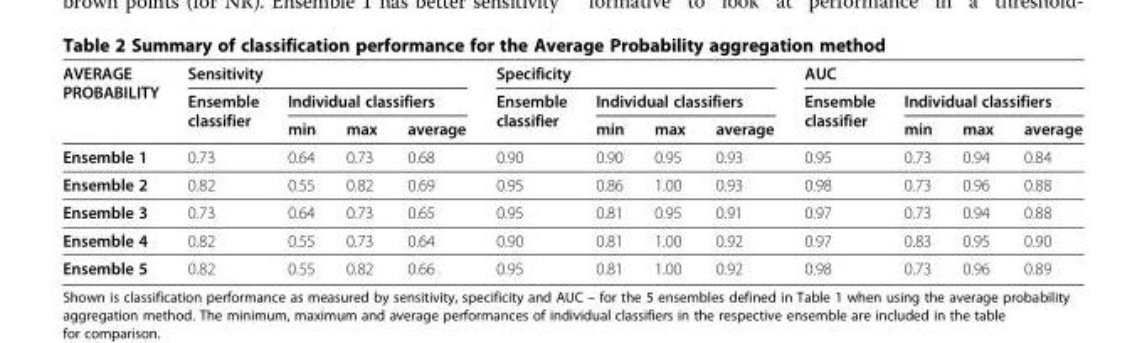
<table><thead><tr><td rowspan="3">AVERAGE PROBABILITY</td><td colspan="4">Sensitivity</td><td colspan="4">Specificity</td><td colspan="4">AUC</td></tr><tr><td rowspan="2">Ensemble classifier</td><td colspan="3">Individual classifiers</td><td rowspan="2">Ensemble classifier</td><td colspan="3">Individual classifiers</td><td rowspan="2">Ensemble classifier</td><td colspan="3">Individual classifiers</td></tr><tr><td>min</td><td>max</td><td>average</td><td>min</td><td>max</td><td>average</td><td>min</td><td>max</td><td>average</td></tr></thead><tbody><tr><td>Ensemble 1</td><td>0.73</td><td>0.64</td><td>0.73</td><td>0.68</td><td>0.90</td><td>0.90</td><td>0.95</td><td>0.93</td><td>0.95</td><td>0.73</td><td>0.94</td><td>0.84</td></tr><tr><td>Ensemble 2</td><td>0.82</td><td>0.55</td><td>0.82</td><td>0.69</td><td>0.95</td><td>0.86</td><td>1.00</td><td>0.93</td><td>0.98</td><td>0.73</td><td>0.96</td><td>0.88</td></tr><tr><td>Ensemble 3</td><td>0.73</td><td>0.64</td><td>0.73</td><td>0.65</td><td>0.95</td><td>0.81</td><td>0.95</td><td>0.91</td><td>0.97</td><td>0.73</td><td>0.94</td><td>0.88</td></tr><tr><td>Ensemble 4</td><td>0.82</td><td>0.55</td><td>0.73</td><td>0.64</td><td>0.90</td><td>0.81</td><td>1.00</td><td>0.92</td><td>0.97</td><td>0.83</td><td>0.95</td><td>0.90</td></tr><tr><td>Ensemble 5</td><td>0.82</td><td>0.55</td><td>0.82</td><td>0.66</td><td>0.95</td><td>0.81</td><td>1.00</td><td>0.92</td><td>0.98</td><td>0.73</td><td>0.96</td><td>0.89</td></tr></tbody></table>